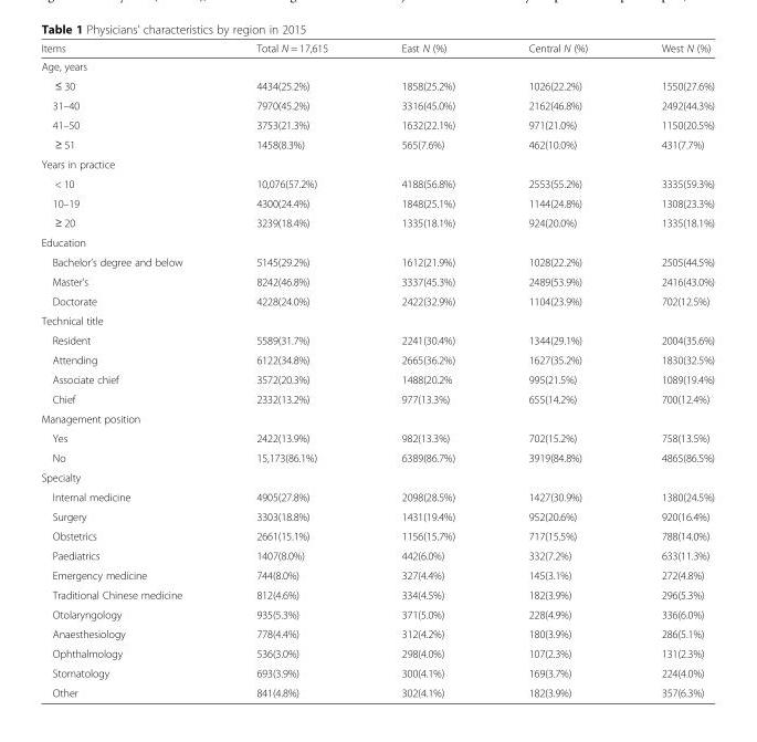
<table><thead><tr><td>Items</td><td>Total N = 17,615</td><td>East N (%)</td><td>Central N (%)</td><td>West N (%)</td></tr></thead><tbody><tr><td colspan="5">Age, years</td></tr><tr><td>≤ 30</td><td>4434(25.2%)</td><td>1858(25.2%)</td><td>1026(22.2%)</td><td>1550(27.6%)</td></tr><tr><td>31–40</td><td>7970(45.2%)</td><td>3316(45.0%)</td><td>2162(46.8%)</td><td>2492(44.3%)</td></tr><tr><td>41–50</td><td>3753(21.3%)</td><td>1632(22.1%)</td><td>971(21.0%)</td><td>1150(20.5%)</td></tr><tr><td>≥ 51</td><td>1458(8.3%)</td><td>565(7.6%)</td><td>462(10.0%)</td><td>431(7.7%)</td></tr><tr><td colspan="5">Years in practice</td></tr><tr><td>&lt; 10</td><td>10,076(57.2%)</td><td>4188(56.8%)</td><td>2553(55.2%)</td><td>3335(59.3%)</td></tr><tr><td>10–19</td><td>4300(24.4%)</td><td>1848(25.1%)</td><td>1144(24.8%)</td><td>1308(23.3%)</td></tr><tr><td>≥ 20</td><td>3239(18.4%)</td><td>1335(18.1%)</td><td>924(20.0%)</td><td>1335(18.1%)</td></tr><tr><td colspan="5">Education</td></tr><tr><td>Bachelor’s degree and below</td><td>5145(29.2%)</td><td>1612(21.9%)</td><td>1028(22.2%)</td><td>2505(44.5%)</td></tr><tr><td>Master’s</td><td>8242(46.8%)</td><td>3337(45.3%)</td><td>2489(53.9%)</td><td>2416(43.0%)</td></tr><tr><td>Doctorate</td><td>4228(24.0%)</td><td>2422(32.9%)</td><td>1104(23.9%)</td><td>702(12.5%)</td></tr><tr><td colspan="5">Technical title</td></tr><tr><td>Resident</td><td>5589(31.7%)</td><td>2241(30.4%)</td><td>1344(29.1%)</td><td>2004(35.6%)</td></tr><tr><td>Attending</td><td>6122(34.8%)</td><td>2665(36.2%)</td><td>1627(35.2%)</td><td>1830(32.5%)</td></tr><tr><td>Associate chief</td><td>3572(20.3%)</td><td>1488(20.2%</td><td>995(21.5%)</td><td>1089(19.4%)</td></tr><tr><td>Chief</td><td>2332(13.2%)</td><td>977(13.3%)</td><td>655(14.2%)</td><td>700(12.4%)</td></tr><tr><td colspan="5">Management position</td></tr><tr><td>Yes</td><td>2422(13.9%)</td><td>982(13.3%)</td><td>702(15.2%)</td><td>758(13.5%)</td></tr><tr><td>No</td><td>15,173(86.1%)</td><td>6389(86.7%)</td><td>3919(84.8%)</td><td>4865(86.5%)</td></tr><tr><td colspan="5">Specialty</td></tr><tr><td>Internal medicine</td><td>4905(27.8%)</td><td>2098(28.5%)</td><td>1427(30.9%)</td><td>1380(24.5%)</td></tr><tr><td>Surgery</td><td>3303(18.8%)</td><td>1431(19.4%)</td><td>952(20.6%)</td><td>920(16.4%)</td></tr><tr><td>Obstetrics</td><td>2661(15.1%)</td><td>1156(15.7%)</td><td>717(15.5%)</td><td>788(14.0%)</td></tr><tr><td>Paediatrics</td><td>1407(8.0%)</td><td>442(6.0%)</td><td>332(7.2%)</td><td>633(11.3%)</td></tr><tr><td>Emergency medicine</td><td>744(8.0%)</td><td>327(4.4%)</td><td>145(3.1%)</td><td>272(4.8%)</td></tr><tr><td>Traditional Chinese medicine</td><td>812(4.6%)</td><td>334(4.5%)</td><td>182(3.9%)</td><td>296(5.3%)</td></tr><tr><td>Otolaryngology</td><td>935(5.3%)</td><td>371(5.0%)</td><td>228(4.9%)</td><td>336(6.0%)</td></tr><tr><td>Anaesthesiology</td><td>778(4.4%)</td><td>312(4.2%)</td><td>180(3.9%)</td><td>286(5.1%)</td></tr><tr><td>Ophthalmology</td><td>536(3.0%)</td><td>298(4.0%)</td><td>107(2.3%)</td><td>131(2.3%)</td></tr><tr><td>Stomatology</td><td>693(3.9%)</td><td>300(4.1%)</td><td>169(3.7%)</td><td>224(4.0%)</td></tr><tr><td>Other</td><td>841(4.8%)</td><td>302(4.1%)</td><td>182(3.9%)</td><td>357(6.3%)</td></tr></tbody></table>